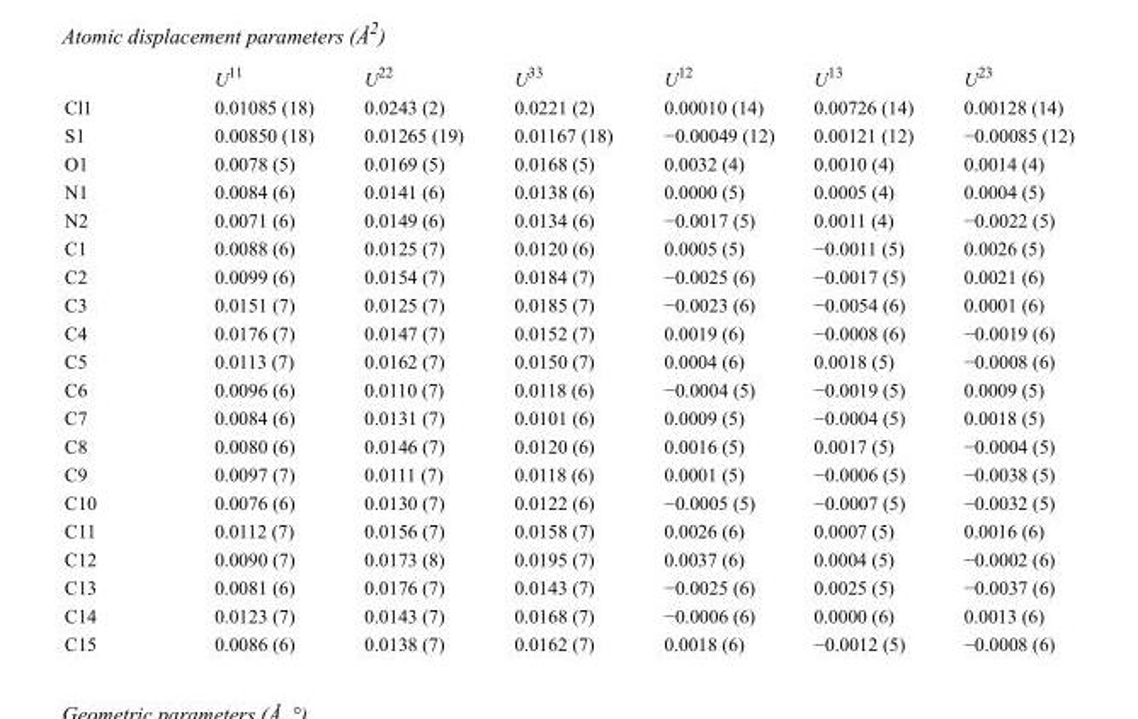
<table><thead><tr><td></td><td>U<sup>11</sup></td><td>U<sup>22</sup></td><td>U<sup>33</sup></td><td>U<sup>12</sup></td><td>U<sup>13</sup></td><td>U<sup>23</sup></td></tr></thead><tbody><tr><td>Cl1</td><td>0.01085 (18)</td><td>0.0243 (2)</td><td>0.0221 (2)</td><td>0.00010 (14)</td><td>0.00726 (14)</td><td>0.00128 (14)</td></tr><tr><td>S1</td><td>0.00850 (18)</td><td>0.01265 (19)</td><td>0.01167 (18)</td><td>−0.00049 (12)</td><td>0.00121 (12)</td><td>−0.00085 (12)</td></tr><tr><td>O1</td><td>0.0078 (5)</td><td>0.0169 (5)</td><td>0.0168 (5)</td><td>0.0032 (4)</td><td>0.0010 (4)</td><td>0.0014 (4)</td></tr><tr><td>N1</td><td>0.0084 (6)</td><td>0.0141 (6)</td><td>0.0138 (6)</td><td>0.0000 (5)</td><td>0.0005 (4)</td><td>0.0004 (5)</td></tr><tr><td>N2</td><td>0.0071 (6)</td><td>0.0149 (6)</td><td>0.0134 (6)</td><td>−0.0017 (5)</td><td>0.0011 (4)</td><td>−0.0022 (5)</td></tr><tr><td>C1</td><td>0.0088 (6)</td><td>0.0125 (7)</td><td>0.0120 (6)</td><td>0.0005 (5)</td><td>−0.0011 (5)</td><td>0.0026 (5)</td></tr><tr><td>C2</td><td>0.0099 (6)</td><td>0.0154 (7)</td><td>0.0184 (7)</td><td>−0.0025 (6)</td><td>−0.0017 (5)</td><td>0.0021 (6)</td></tr><tr><td>C3</td><td>0.0151 (7)</td><td>0.0125 (7)</td><td>0.0185 (7)</td><td>−0.0023 (6)</td><td>−0.0054 (6)</td><td>0.0001 (6)</td></tr><tr><td>C4</td><td>0.0176 (7)</td><td>0.0147 (7)</td><td>0.0152 (7)</td><td>0.0019 (6)</td><td>−0.0008 (6)</td><td>−0.0019 (6)</td></tr><tr><td>C5</td><td>0.0113 (7)</td><td>0.0162 (7)</td><td>0.0150 (7)</td><td>0.0004 (6)</td><td>0.0018 (5)</td><td>−0.0008 (6)</td></tr><tr><td>C6</td><td>0.0096 (6)</td><td>0.0110 (7)</td><td>0.0118 (6)</td><td>−0.0004 (5)</td><td>−0.0019 (5)</td><td>0.0009 (5)</td></tr><tr><td>C7</td><td>0.0084 (6)</td><td>0.0131 (7)</td><td>0.0101 (6)</td><td>0.0009 (5)</td><td>−0.0004 (5)</td><td>0.0018 (5)</td></tr><tr><td>C8</td><td>0.0080 (6)</td><td>0.0146 (7)</td><td>0.0120 (6)</td><td>0.0016 (5)</td><td>0.0017 (5)</td><td>−0.0004 (5)</td></tr><tr><td>C9</td><td>0.0097 (7)</td><td>0.0111 (7)</td><td>0.0118 (6)</td><td>0.0001 (5)</td><td>−0.0006 (5)</td><td>−0.0038 (5)</td></tr><tr><td>C10</td><td>0.0076 (6)</td><td>0.0130 (7)</td><td>0.0122 (6)</td><td>−0.0005 (5)</td><td>−0.0007 (5)</td><td>−0.0032 (5)</td></tr><tr><td>C11</td><td>0.0112 (7)</td><td>0.0156 (7)</td><td>0.0158 (7)</td><td>0.0026 (6)</td><td>0.0007 (5)</td><td>0.0016 (6)</td></tr><tr><td>C12</td><td>0.0090 (7)</td><td>0.0173 (8)</td><td>0.0195 (7)</td><td>0.0037 (6)</td><td>0.0004 (5)</td><td>−0.0002 (6)</td></tr><tr><td>C13</td><td>0.0081 (6)</td><td>0.0176 (7)</td><td>0.0143 (7)</td><td>−0.0025 (6)</td><td>0.0025 (5)</td><td>−0.0037 (6)</td></tr><tr><td>C14</td><td>0.0123 (7)</td><td>0.0143 (7)</td><td>0.0168 (7)</td><td>−0.0006 (6)</td><td>0.0000 (6)</td><td>0.0013 (6)</td></tr><tr><td>C15</td><td>0.0086 (6)</td><td>0.0138 (7)</td><td>0.0162 (7)</td><td>0.0018 (6)</td><td>−0.0012 (5)</td><td>−0.0008 (6)</td></tr></tbody></table>